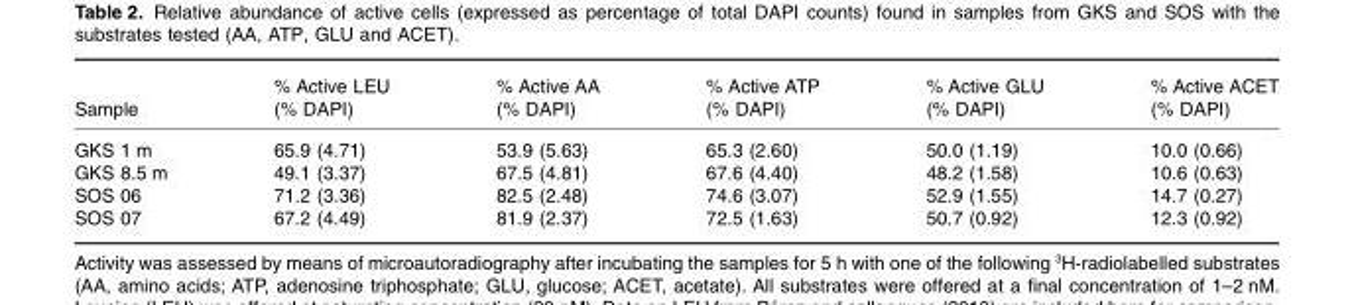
<table><thead><tr><td rowspan="2">Sample</td><td rowspan="2">% Active LEU (% DAPI)</td><td rowspan="2">% Active AA (% DAPI)</td><td rowspan="2">% Active ATP (% DAPI)</td><td rowspan="2">% Active GLU (% DAPI)</td><td rowspan="2">% Active ACET (% DAPI)</td></tr><tr></tr></thead><tbody><tr><td>GKS 1 m</td><td>65.9 (4.71)</td><td>53.9 (5.63)</td><td>65.3 (2.60)</td><td>50.0 (1.19)</td><td>10.0 (0.66)</td></tr><tr><td>GKS 8.5 m</td><td>49.1 (3.37)</td><td>67.5 (4.81)</td><td>67.6 (4.40)</td><td>48.2 (1.58)</td><td>10.6 (0.63)</td></tr><tr><td>SOS 06</td><td>71.2 (3.36)</td><td>82.5 (2.48)</td><td>74.6 (3.07)</td><td>52.9 (1.55)</td><td>14.7 (0.27)</td></tr><tr><td>SOS 07</td><td>67.2 (4.49)</td><td>81.9 (2.37)</td><td>72.5 (1.63)</td><td>50.7 (0.92)</td><td>12.3 (0.92)</td></tr></tbody></table>